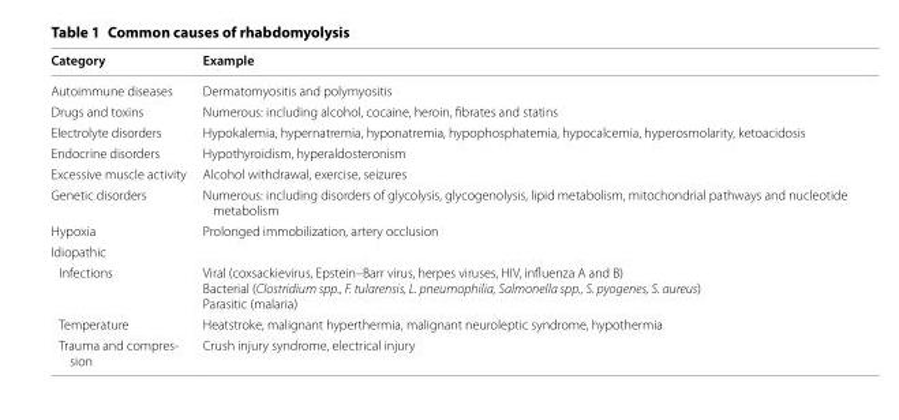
<table><thead><tr><td>Category</td><td>Example</td></tr></thead><tbody><tr><td>Autoimmune diseases</td><td>Dermatomyositis and polymyositis</td></tr><tr><td>Drugs and toxins</td><td>Numerous: including alcohol, cocaine, heroin, fibrates and statins</td></tr><tr><td>Electrolyte disorders</td><td>Hypokalemia, hypernatremia, hyponatremia, hypophosphatemia, hypocalcemia, hyperosmolarity, ketoacidosis</td></tr><tr><td>Endocrine disorders</td><td>Hypothyroidism, hyperaldosteronism</td></tr><tr><td>Excessive muscle activity</td><td>Alcohol withdrawal, exercise, seizures</td></tr><tr><td>Genetic disorders</td><td>Numerous: including disorders of glycolysis, glycogenolysis, lipid metabolism, mitochondrial pathways and nucleotide metabolism</td></tr><tr><td>Hypoxia</td><td>Prolonged immobilization, artery occlusion</td></tr><tr><td colspan="2">Idiopathic</td></tr><tr><td>Infections</td><td>Viral (coxsackievirus, Epstein–Barr virus, herpes viruses, HIV, influenza A and B) Bacterial (Clostridium spp., F. tularensis, L. pneumophilia, Salmonella spp., S. pyogenes, S. aureus) Parasitic (malaria)</td></tr><tr><td>Temperature</td><td>Heatstroke, malignant hyperthermia, malignant neuroleptic syndrome, hypothermia</td></tr><tr><td>Trauma and compres- sion</td><td>Crush injury syndrome, electrical injury</td></tr></tbody></table>